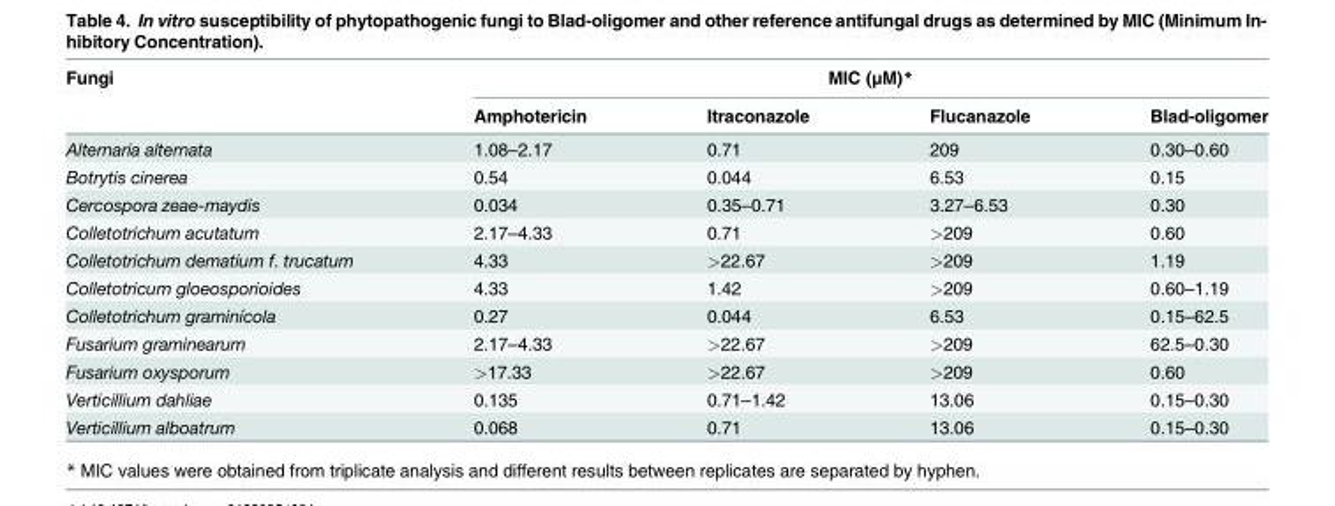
<table><thead><tr><td rowspan="2">Fungi</td><td colspan="4">MIC (μM)*</td></tr><tr><td>Amphotericin</td><td>Itraconazole</td><td>Flucanazole</td><td>Blad-oligomer</td></tr></thead><tbody><tr><td>Alternaria alternata</td><td>1.08–2.17</td><td>0.71</td><td>209</td><td>0.30–0.60</td></tr><tr><td>Botrytis cinerea</td><td>0.54</td><td>0.044</td><td>6.53</td><td>0.15</td></tr><tr><td>Cercospora zeae-maydis</td><td>0.034</td><td>0.35–0.71</td><td>3.27–6.53</td><td>0.30</td></tr><tr><td>Colletotrichum acutatum</td><td>2.17–4.33</td><td>0.71</td><td>&gt;209</td><td>0.60</td></tr><tr><td>Colletotrichum dematium f. trucatum</td><td>4.33</td><td>&gt;22.67</td><td>&gt;209</td><td>1.19</td></tr><tr><td>Colletotricum gloeosporioides</td><td>4.33</td><td>1.42</td><td>&gt;209</td><td>0.60–1.19</td></tr><tr><td>Colletotrichum graminícola</td><td>0.27</td><td>0.044</td><td>6.53</td><td>0.15–62.5</td></tr><tr><td>Fusarium graminearum</td><td>2.17–4.33</td><td>&gt;22.67</td><td>&gt;209</td><td>62.5–0.30</td></tr><tr><td>Fusarium oxysporum</td><td>&gt;17.33</td><td>&gt;22.67</td><td>&gt;209</td><td>0.60</td></tr><tr><td>Verticillium dahliae</td><td>0.135</td><td>0.71–1.42</td><td>13.06</td><td>0.15–0.30</td></tr><tr><td>Verticillium alboatrum</td><td>0.068</td><td>0.71</td><td>13.06</td><td>0.15–0.30</td></tr></tbody></table>